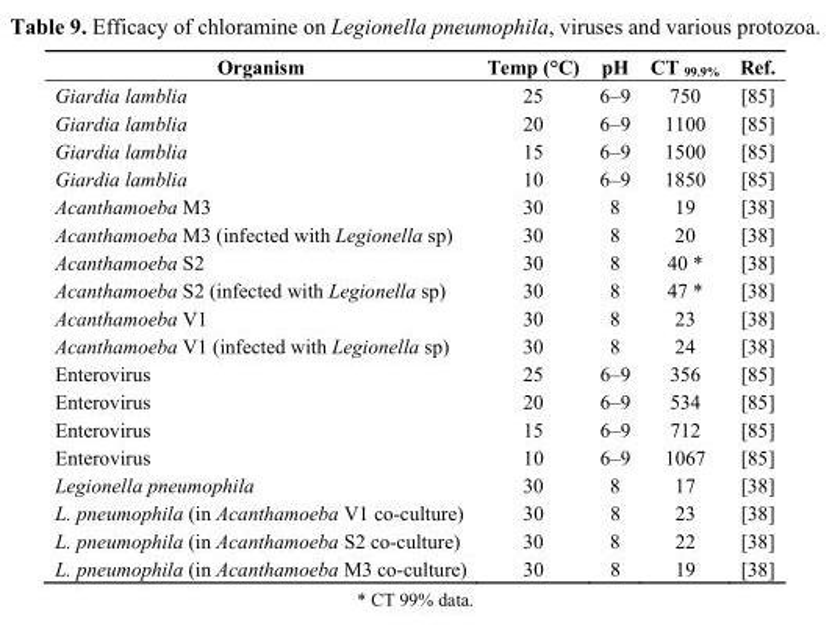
<table><thead><tr><td>Organism</td><td>Temp (°C)</td><td>pH</td><td>CT <sub>99.9%</sub></td><td>Ref.</td></tr></thead><tbody><tr><td>Giardia lamblia</td><td>25</td><td>6–9</td><td>750</td><td>[85]</td></tr><tr><td>Giardia lamblia</td><td>20</td><td>6–9</td><td>1100</td><td>[85]</td></tr><tr><td>Giardia lamblia</td><td>15</td><td>6–9</td><td>1500</td><td>[85]</td></tr><tr><td>Giardia lamblia</td><td>10</td><td>6–9</td><td>1850</td><td>[85]</td></tr><tr><td>Acanthamoeba M3</td><td>30</td><td>8</td><td>19</td><td>[38]</td></tr><tr><td>Acanthamoeba M3 (infected with Legionella sp)</td><td>30</td><td>8</td><td>20</td><td>[38]</td></tr><tr><td>Acanthamoeba S2</td><td>30</td><td>8</td><td>40 *</td><td>[38]</td></tr><tr><td>Acanthamoeba S2 (infected with Legionella sp)</td><td>30</td><td>8</td><td>47 *</td><td>[38]</td></tr><tr><td>Acanthamoeba V1</td><td>30</td><td>8</td><td>23</td><td>[38]</td></tr><tr><td>Acanthamoeba V1 (infected with Legionella sp)</td><td>30</td><td>8</td><td>24</td><td>[38]</td></tr><tr><td>Enterovirus</td><td>25</td><td>6–9</td><td>356</td><td>[85]</td></tr><tr><td>Enterovirus</td><td>20</td><td>6–9</td><td>534</td><td>[85]</td></tr><tr><td>Enterovirus</td><td>15</td><td>6–9</td><td>712</td><td>[85]</td></tr><tr><td>Enterovirus</td><td>10</td><td>6–9</td><td>1067</td><td>[85]</td></tr><tr><td>Legionella pneumophila</td><td>30</td><td>8</td><td>17</td><td>[38]</td></tr><tr><td>L. pneumophila (in Acanthamoeba V1 co-culture)</td><td>30</td><td>8</td><td>23</td><td>[38]</td></tr><tr><td>L. pneumophila (in Acanthamoeba S2 co-culture)</td><td>30</td><td>8</td><td>22</td><td>[38]</td></tr><tr><td>L. pneumophila (in Acanthamoeba M3 co-culture)</td><td>30</td><td>8</td><td>19</td><td>[38]</td></tr></tbody></table>